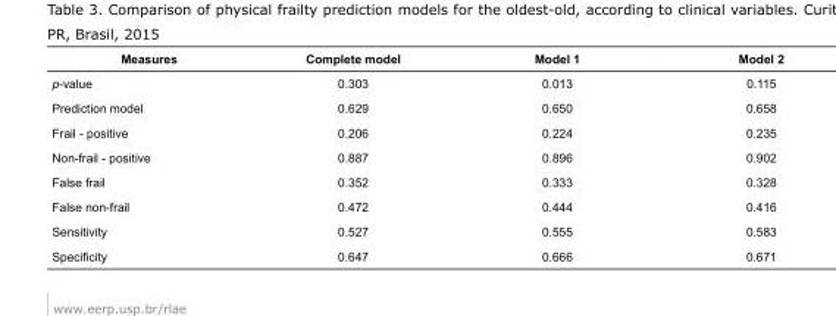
<table><tbody><tr><td>Measures</td><td>Complete model</td><td>Model 1</td><td>Model 2</td></tr><tr><td>p-value</td><td>0.303</td><td>0.013</td><td>0.115</td></tr><tr><td>Prediction model</td><td>0.629</td><td>0.650</td><td>0.658</td></tr><tr><td>Frail - positive</td><td>0.206</td><td>0.224</td><td>0.235</td></tr><tr><td>Non-frail - positive</td><td>0.887</td><td>0.896</td><td>0.902</td></tr><tr><td>False frail</td><td>0.352</td><td>0.333</td><td>0.328</td></tr><tr><td>False non-frail</td><td>0.472</td><td>0.444</td><td>0.416</td></tr><tr><td>Sensitivity</td><td>0.527</td><td>0.555</td><td>0.583</td></tr><tr><td>Specificity</td><td>0.647</td><td>0.666</td><td>0.671</td></tr></tbody></table>